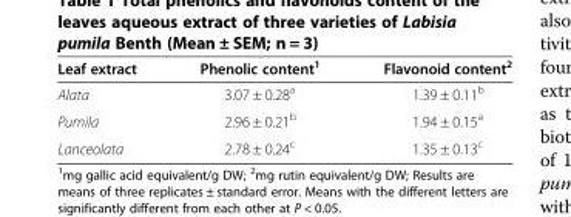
<table><thead><tr><td>Leaf extract</td><td>Phenolic content<sup>1</sup></td><td>Flavonoid content<sup>2</sup></td></tr></thead><tbody><tr><td>Alata</td><td>3.07 ± 0.28<sup>a</sup></td><td>1.39 ± 0.11<sup>b</sup></td></tr><tr><td>Pumila</td><td>2.96 ± 0.21<sup>b</sup></td><td>1.94 ± 0.15<sup>a</sup></td></tr><tr><td>Lanceolata</td><td>2.78 ± 0.24<sup>c</sup></td><td>1.35 ± 0.13<sup>c</sup></td></tr></tbody></table>